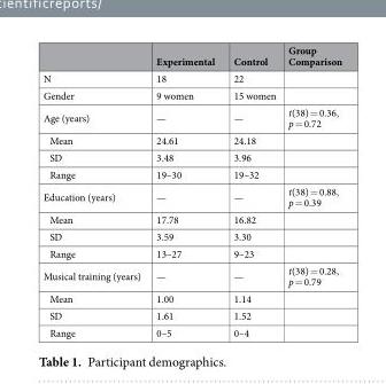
<table><thead><tr><td></td><td>Experimental</td><td>Control</td><td>Group Comparison</td></tr></thead><tbody><tr><td>N</td><td>18</td><td>22</td><td></td></tr><tr><td>Gender</td><td>9 women</td><td>15 women</td><td></td></tr><tr><td>Age (years)</td><td>—</td><td>—</td><td>t(38) = 0.36, p = 0.72</td></tr><tr><td>Mean</td><td>24.61</td><td>24.18</td><td></td></tr><tr><td>SD</td><td>3.48</td><td>3.96</td><td></td></tr><tr><td>Range</td><td>19–30</td><td>19–32</td><td></td></tr><tr><td>Education (years)</td><td>—</td><td>—</td><td>t(38) = 0.88, p = 0.39</td></tr><tr><td>Mean</td><td>17.78</td><td>16.82</td><td></td></tr><tr><td>SD</td><td>3.59</td><td>3.30</td><td></td></tr><tr><td>Range</td><td>13–27</td><td>9–23</td><td></td></tr><tr><td>Musical training (years)</td><td>—</td><td>—</td><td>t(38) = 0.28, p = 0.79</td></tr><tr><td>Mean</td><td>1.00</td><td>1.14</td><td></td></tr><tr><td>SD</td><td>1.61</td><td>1.52</td><td></td></tr><tr><td>Range</td><td>0–5</td><td>0–4</td><td></td></tr></tbody></table>